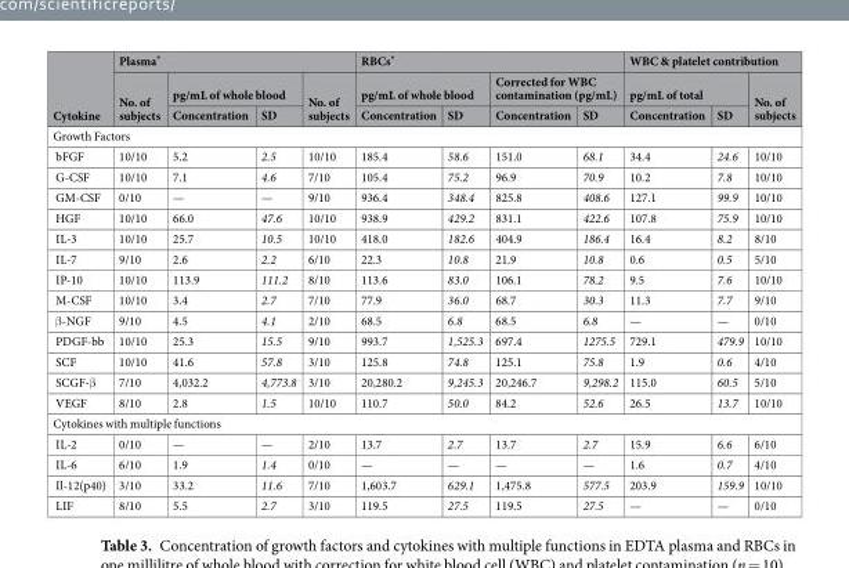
<table><thead><tr><td rowspan="3">Cytokine</td><td colspan="4">Plasma*</td><td colspan="4">RBCs*</td><td colspan="3">WBC &amp; platelet contribution</td></tr><tr><td rowspan="2">No. of subjects</td><td colspan="2">pg/mL of whole blood</td><td rowspan="2">No. of subjects</td><td colspan="2">pg/mL of whole blood</td><td colspan="2">Corrected for WBC contamination (pg/mL)</td><td colspan="2">pg/mL of total</td><td rowspan="2">No. of subjects</td></tr><tr><td>Concentration</td><td>SD</td><td>Concentration</td><td>SD</td><td>Concentration</td><td>SD</td><td>Concentration</td><td>SD</td></tr></thead><tbody><tr><td colspan="12">Growth Factors</td></tr><tr><td>bFGF</td><td>10/10</td><td>5.2</td><td>2.5</td><td>10/10</td><td>185.4</td><td>58.6</td><td>151.0</td><td>68.1</td><td>34.4</td><td>24.6</td><td>10/10</td></tr><tr><td>G-CSF</td><td>10/10</td><td>7.1</td><td>4.6</td><td>7/10</td><td>105.4</td><td>75.2</td><td>96.9</td><td>70.9</td><td>10.2</td><td>7.8</td><td>10/10</td></tr><tr><td>GM-CSF</td><td>0/10</td><td>—</td><td>—</td><td>9/10</td><td>936.4</td><td>348.4</td><td>825.8</td><td>408.6</td><td>127.1</td><td>99.9</td><td>10/10</td></tr><tr><td>HGF</td><td>10/10</td><td>66.0</td><td>47.6</td><td>10/10</td><td>938.9</td><td>429.2</td><td>831.1</td><td>422.6</td><td>107.8</td><td>75.9</td><td>10/10</td></tr><tr><td>IL-3</td><td>10/10</td><td>25.7</td><td>10.5</td><td>10/10</td><td>418.0</td><td>182.6</td><td>404.9</td><td>186.4</td><td>16.4</td><td>8.2</td><td>8/10</td></tr><tr><td>IL-7</td><td>9/10</td><td>2.6</td><td>2.2</td><td>6/10</td><td>22.3</td><td>10.8</td><td>21.9</td><td>10.8</td><td>0.6</td><td>0.5</td><td>5/10</td></tr><tr><td>IP-10</td><td>10/10</td><td>113.9</td><td>111.2</td><td>8/10</td><td>113.6</td><td>83.0</td><td>106.1</td><td>78.2</td><td>9.5</td><td>7.6</td><td>10/10</td></tr><tr><td>M-CSF</td><td>10/10</td><td>3.4</td><td>2.7</td><td>7/10</td><td>77.9</td><td>36.0</td><td>68.7</td><td>30.3</td><td>11.3</td><td>7.7</td><td>9/10</td></tr><tr><td>β-NGF</td><td>9/10</td><td>4.5</td><td>4.1</td><td>2/10</td><td>68.5</td><td>6.8</td><td>68.5</td><td>6.8</td><td>—</td><td>—</td><td>0/10</td></tr><tr><td>PDGF-bb</td><td>10/10</td><td>25.3</td><td>15.5</td><td>9/10</td><td>993.7</td><td>1,525.3</td><td>697.4</td><td>1275.5</td><td>729.1</td><td>479.9</td><td>10/10</td></tr><tr><td>SCF</td><td>10/10</td><td>41.6</td><td>57.8</td><td>3/10</td><td>125.8</td><td>74.8</td><td>125.1</td><td>75.8</td><td>1.9</td><td>0.6</td><td>4/10</td></tr><tr><td>SCGF-β</td><td>7/10</td><td>4,032.2</td><td>4,773.8</td><td>3/10</td><td>20,280.2</td><td>9,245.3</td><td>20,246.7</td><td>9,298.2</td><td>115.0</td><td>60.5</td><td>5/10</td></tr><tr><td>VEGF</td><td>8/10</td><td>2.8</td><td>1.5</td><td>10/10</td><td>110.7</td><td>50.0</td><td>84.2</td><td>52.6</td><td>26.5</td><td>13.7</td><td>10/10</td></tr><tr><td colspan="12">Cytokines with multiple functions</td></tr><tr><td>IL-2</td><td>0/10</td><td>—</td><td>—</td><td>2/10</td><td>13.7</td><td>2.7</td><td>13.7</td><td>2.7</td><td>15.9</td><td>6.6</td><td>6/10</td></tr><tr><td>IL-6</td><td>6/10</td><td>1.9</td><td>1.4</td><td>0/10</td><td>—</td><td>—</td><td>—</td><td>—</td><td>1.6</td><td>0.7</td><td>4/10</td></tr><tr><td>Il-12(p40)</td><td>3/10</td><td>33.2</td><td>11.6</td><td>7/10</td><td>1,603.7</td><td>629.1</td><td>1,475.8</td><td>577.5</td><td>203.9</td><td>159.9</td><td>10/10</td></tr><tr><td>LIF</td><td>8/10</td><td>5.5</td><td>2.7</td><td>3/10</td><td>119.5</td><td>27.5</td><td>119.5</td><td>27.5</td><td>—</td><td>—</td><td>0/10</td></tr></tbody></table>